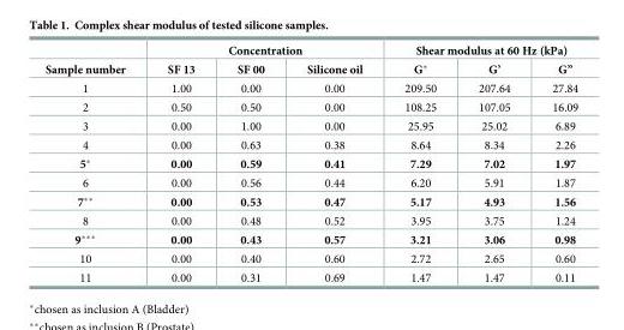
<table><thead><tr><td rowspan="2">Sample number</td><td colspan="3">Concentration</td><td colspan="3">Shear modulus at 60 Hz (kPa)</td></tr><tr><td>SF 13</td><td>SF 00</td><td>Silicone oil</td><td>G*</td><td>G’</td><td>G”</td></tr></thead><tbody><tr><td>1</td><td>1.00</td><td>0.00</td><td>0.00</td><td>209.50</td><td>207.64</td><td>27.84</td></tr><tr><td>2</td><td>0.50</td><td>0.50</td><td>0.00</td><td>108.25</td><td>107.05</td><td>16.09</td></tr><tr><td>3</td><td>0.00</td><td>1.00</td><td>0.00</td><td>25.95</td><td>25.02</td><td>6.89</td></tr><tr><td>4</td><td>0.00</td><td>0.63</td><td>0.38</td><td>8.64</td><td>8.34</td><td>2.26</td></tr><tr><td>5*</td><td>0.00</td><td>0.59</td><td>0.41</td><td>7.29</td><td>7.02</td><td>1.97</td></tr><tr><td>6</td><td>0.00</td><td>0.56</td><td>0.44</td><td>6.20</td><td>5.91</td><td>1.87</td></tr><tr><td>7**</td><td>0.00</td><td>0.53</td><td>0.47</td><td>5.17</td><td>4.93</td><td>1.56</td></tr><tr><td>8</td><td>0.00</td><td>0.48</td><td>0.52</td><td>3.95</td><td>3.75</td><td>1.24</td></tr><tr><td>9***</td><td>0.00</td><td>0.43</td><td>0.57</td><td>3.21</td><td>3.06</td><td>0.98</td></tr><tr><td>10</td><td>0.00</td><td>0.40</td><td>0.60</td><td>2.72</td><td>2.65</td><td>0.60</td></tr><tr><td>11</td><td>0.00</td><td>0.31</td><td>0.69</td><td>1.47</td><td>1.47</td><td>0.11</td></tr></tbody></table>